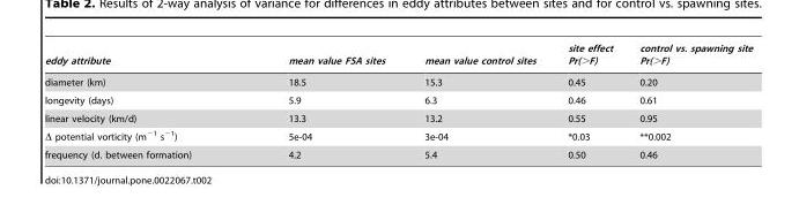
<table><thead><tr><td>eddy attribute</td><td>mean value FSA sites</td><td>mean value control sites</td><td>site effect Pr(&gt;F)</td><td>control vs. spawning site Pr(&gt;F)</td></tr></thead><tbody><tr><td>diameter (km)</td><td>18.5</td><td>15.3</td><td>0.45</td><td>0.20</td></tr><tr><td>longevity (days)</td><td>5.9</td><td>6.3</td><td>0.46</td><td>0.61</td></tr><tr><td>linear velocity (km/d)</td><td>13.3</td><td>13.2</td><td>0.55</td><td>0.95</td></tr><tr><td>Δ potential vorticity (m<sup>−1</sup> s<sup>−1</sup>)</td><td>5e-04</td><td>3e-04</td><td>*0.03</td><td>**0.002</td></tr><tr><td>frequency (d. between formation)</td><td>4.2</td><td>5.4</td><td>0.50</td><td>0.46</td></tr></tbody></table>